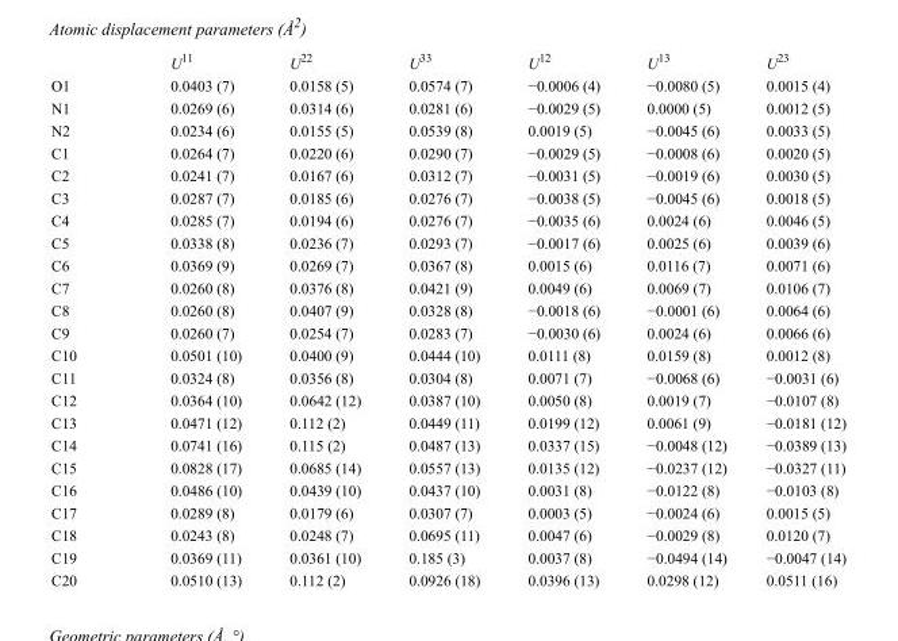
<table><thead><tr><td></td><td>U<sup>11</sup></td><td>U<sup>22</sup></td><td>U<sup>33</sup></td><td>U<sup>12</sup></td><td>U<sup>13</sup></td><td>U<sup>23</sup></td></tr></thead><tbody><tr><td>O1</td><td>0.0403 (7)</td><td>0.0158 (5)</td><td>0.0574 (7)</td><td>−0.0006 (4)</td><td>−0.0080 (5)</td><td>0.0015 (4)</td></tr><tr><td>N1</td><td>0.0269 (6)</td><td>0.0314 (6)</td><td>0.0281 (6)</td><td>−0.0029 (5)</td><td>0.0000 (5)</td><td>0.0012 (5)</td></tr><tr><td>N2</td><td>0.0234 (6)</td><td>0.0155 (5)</td><td>0.0539 (8)</td><td>0.0019 (5)</td><td>−0.0045 (6)</td><td>0.0033 (5)</td></tr><tr><td>C1</td><td>0.0264 (7)</td><td>0.0220 (6)</td><td>0.0290 (7)</td><td>−0.0029 (5)</td><td>−0.0008 (6)</td><td>0.0020 (5)</td></tr><tr><td>C2</td><td>0.0241 (7)</td><td>0.0167 (6)</td><td>0.0312 (7)</td><td>−0.0031 (5)</td><td>−0.0019 (6)</td><td>0.0030 (5)</td></tr><tr><td>C3</td><td>0.0287 (7)</td><td>0.0185 (6)</td><td>0.0276 (7)</td><td>−0.0038 (5)</td><td>−0.0045 (6)</td><td>0.0018 (5)</td></tr><tr><td>C4</td><td>0.0285 (7)</td><td>0.0194 (6)</td><td>0.0276 (7)</td><td>−0.0035 (6)</td><td>0.0024 (6)</td><td>0.0046 (5)</td></tr><tr><td>C5</td><td>0.0338 (8)</td><td>0.0236 (7)</td><td>0.0293 (7)</td><td>−0.0017 (6)</td><td>0.0025 (6)</td><td>0.0039 (6)</td></tr><tr><td>C6</td><td>0.0369 (9)</td><td>0.0269 (7)</td><td>0.0367 (8)</td><td>0.0015 (6)</td><td>0.0116 (7)</td><td>0.0071 (6)</td></tr><tr><td>C7</td><td>0.0260 (8)</td><td>0.0376 (8)</td><td>0.0421 (9)</td><td>0.0049 (6)</td><td>0.0069 (7)</td><td>0.0106 (7)</td></tr><tr><td>C8</td><td>0.0260 (8)</td><td>0.0407 (9)</td><td>0.0328 (8)</td><td>−0.0018 (6)</td><td>−0.0001 (6)</td><td>0.0064 (6)</td></tr><tr><td>C9</td><td>0.0260 (7)</td><td>0.0254 (7)</td><td>0.0283 (7)</td><td>−0.0030 (6)</td><td>0.0024 (6)</td><td>0.0066 (6)</td></tr><tr><td>C10</td><td>0.0501 (10)</td><td>0.0400 (9)</td><td>0.0444 (10)</td><td>0.0111 (8)</td><td>0.0159 (8)</td><td>0.0012 (8)</td></tr><tr><td>C11</td><td>0.0324 (8)</td><td>0.0356 (8)</td><td>0.0304 (8)</td><td>0.0071 (7)</td><td>−0.0068 (6)</td><td>−0.0031 (6)</td></tr><tr><td>C12</td><td>0.0364 (10)</td><td>0.0642 (12)</td><td>0.0387 (10)</td><td>0.0050 (8)</td><td>0.0019 (7)</td><td>−0.0107 (8)</td></tr><tr><td>C13</td><td>0.0471 (12)</td><td>0.112 (2)</td><td>0.0449 (11)</td><td>0.0199 (12)</td><td>0.0061 (9)</td><td>−0.0181 (12)</td></tr><tr><td>C14</td><td>0.0741 (16)</td><td>0.115 (2)</td><td>0.0487 (13)</td><td>0.0337 (15)</td><td>−0.0048 (12)</td><td>−0.0389 (13)</td></tr><tr><td>C15</td><td>0.0828 (17)</td><td>0.0685 (14)</td><td>0.0557 (13)</td><td>0.0135 (12)</td><td>−0.0237 (12)</td><td>−0.0327 (11)</td></tr><tr><td>C16</td><td>0.0486 (10)</td><td>0.0439 (10)</td><td>0.0437 (10)</td><td>0.0031 (8)</td><td>−0.0122 (8)</td><td>−0.0103 (8)</td></tr><tr><td>C17</td><td>0.0289 (8)</td><td>0.0179 (6)</td><td>0.0307 (7)</td><td>0.0003 (5)</td><td>−0.0024 (6)</td><td>0.0015 (5)</td></tr><tr><td>C18</td><td>0.0243 (8)</td><td>0.0248 (7)</td><td>0.0695 (11)</td><td>0.0047 (6)</td><td>−0.0029 (8)</td><td>0.0120 (7)</td></tr><tr><td>C19</td><td>0.0369 (11)</td><td>0.0361 (10)</td><td>0.185 (3)</td><td>0.0037 (8)</td><td>−0.0494 (14)</td><td>−0.0047 (14)</td></tr><tr><td>C20</td><td>0.0510 (13)</td><td>0.112 (2)</td><td>0.0926 (18)</td><td>0.0396 (13)</td><td>0.0298 (12)</td><td>0.0511 (16)</td></tr></tbody></table>